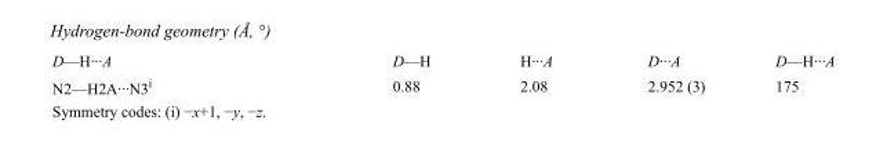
<table><tbody><tr><td>D—H···A</td><td>D—H</td><td>H···A</td><td>D···A</td><td>D—H···A</td></tr><tr><td>N2—H2A···N3<sup>i</sup></td><td>0.88</td><td>2.08</td><td>2.952 (3)</td><td>175</td></tr></tbody></table>